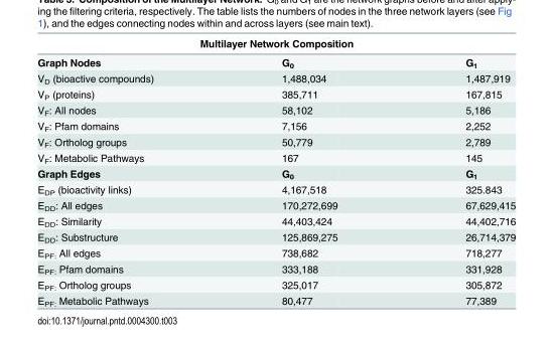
<table><thead><tr><td colspan="3">Multilayer Network Composition</td></tr><tr><td>Graph Nodes</td><td>G<sub>0</sub></td><td>G<sub>1</sub></td></tr></thead><tbody><tr><td>V<sub>D</sub> (bioactive compounds)</td><td>1,488,034</td><td>1,487,919</td></tr><tr><td>V<sub>P</sub> (proteins)</td><td>385,711</td><td>167,815</td></tr><tr><td>V<sub>F</sub>: All nodes</td><td>58,102</td><td>5,186</td></tr><tr><td>V<sub>F</sub>: Pfam domains</td><td>7,156</td><td>2,252</td></tr><tr><td>V<sub>F</sub>: Ortholog groups</td><td>50,779</td><td>2,789</td></tr><tr><td>V<sub>F</sub>: Metabolic Pathways</td><td>167</td><td>145</td></tr><tr><td>Graph Edges</td><td>G<sub>0</sub></td><td>G<sub>1</sub></td></tr><tr><td>E<sub>DP</sub> (bioactivity links)</td><td>4,167,518</td><td>325.843</td></tr><tr><td>E<sub>DD</sub>: All edges</td><td>170,272,699</td><td>67,629,415</td></tr><tr><td>E<sub>DD</sub>: Similarity</td><td>44,403,424</td><td>44,402,716</td></tr><tr><td>E<sub>DD</sub>: Substructure</td><td>125,869,275</td><td>26,714,379</td></tr><tr><td>E<sub>PF:</sub> All edges</td><td>738,682</td><td>718,277</td></tr><tr><td>E<sub>PF:</sub> Pfam domains</td><td>333,188</td><td>331,928</td></tr><tr><td>E<sub>PF:</sub> Ortholog groups</td><td>325,017</td><td>305,872</td></tr><tr><td>E<sub>PF:</sub> Metabolic Pathways</td><td>80,477</td><td>77,389</td></tr></tbody></table>